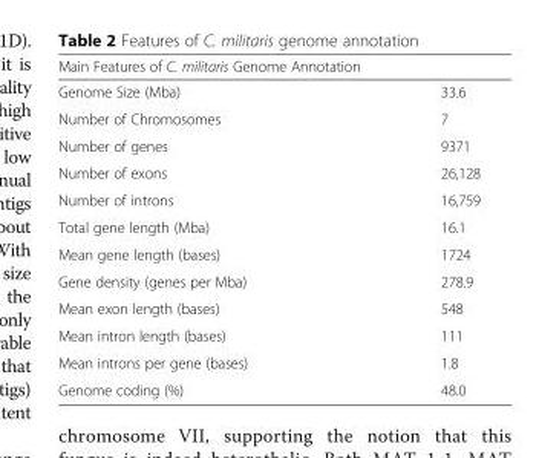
<table><thead><tr><td colspan="2">Main Features of C. militaris Genome Annotation</td></tr><tr><td>Genome Size (Mba)</td><td>33.6</td></tr></thead><tbody><tr><td>Number of Chromosomes</td><td>7</td></tr><tr><td>Number of genes</td><td>9371</td></tr><tr><td>Number of exons</td><td>26,128</td></tr><tr><td>Number of introns</td><td>16,759</td></tr><tr><td>Total gene length (Mba)</td><td>16.1</td></tr><tr><td>Mean gene length (bases)</td><td>1724</td></tr><tr><td>Gene density (genes per Mba)</td><td>278.9</td></tr><tr><td>Mean exon length (bases)</td><td>548</td></tr><tr><td>Mean intron length (bases)</td><td>111</td></tr><tr><td>Mean introns per gene (bases)</td><td>1.8</td></tr><tr><td>Genome coding (%)</td><td>48.0</td></tr></tbody></table>